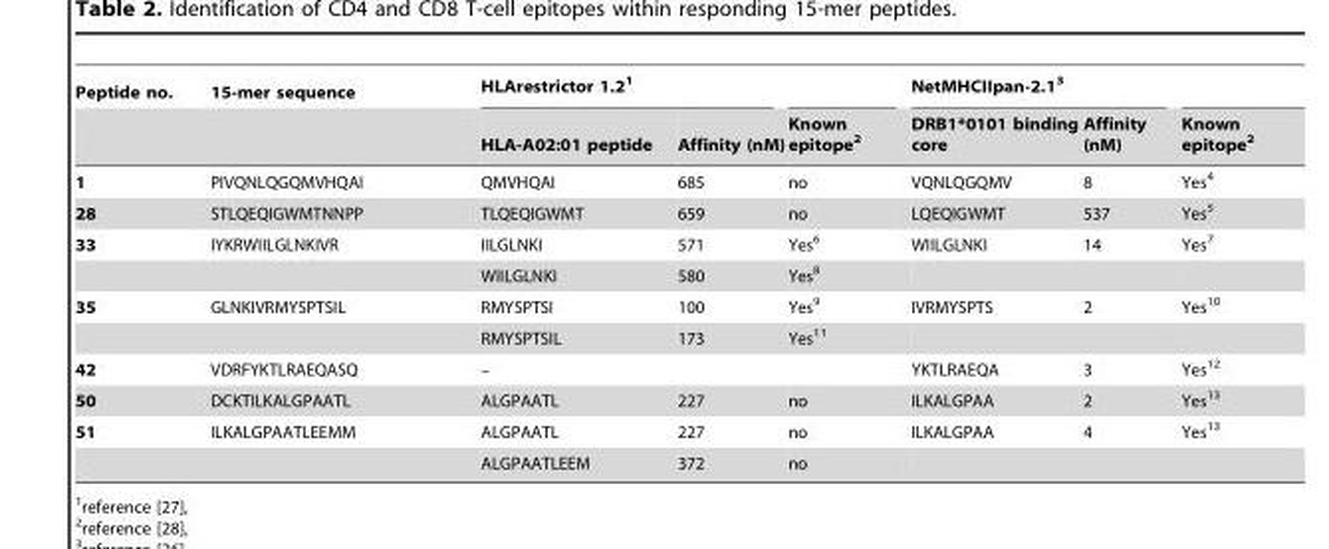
<table><thead><tr><td rowspan="2">Peptide no.</td><td rowspan="2">15-mer sequence</td><td colspan="2">HLArestrictor 1.2<sup>1</sup></td><td rowspan="2">Known epitope<sup>2</sup></td><td colspan="2">NetMHCIIpan-2.1<sup>3</sup></td><td rowspan="2">Known epitope<sup>2</sup></td></tr><tr><td>HLA-A02:01 peptide</td><td>Affinity (nM)</td><td>DRB1*0101 binding core</td><td>Affinity (nM)</td></tr></thead><tbody><tr><td>1</td><td>PIVQNLQGQMVHQAI</td><td>QMVHQAI</td><td>685</td><td>no</td><td>VQNLQGQMV</td><td>8</td><td>Yes<sup>4</sup></td></tr><tr><td>28</td><td>STLQEQIGWMTNNPP</td><td>TLQEQIGWMT</td><td>659</td><td>no</td><td>LQEQIGWMT</td><td>537</td><td>Yes<sup>5</sup></td></tr><tr><td rowspan="2">33</td><td>IYKRWIILGLNKIVR</td><td>IILGLNKI</td><td>571</td><td>Yes<sup>6</sup></td><td>WIILGLNKI</td><td>14</td><td>Yes<sup>7</sup></td></tr><tr><td></td><td>WIILGLNKI</td><td>580</td><td>Yes<sup>8</sup></td><td></td><td></td><td></td></tr><tr><td rowspan="2">35</td><td>GLNKIVRMYSPTSIL</td><td>RMYSPTSI</td><td>100</td><td>Yes<sup>9</sup></td><td>IVRMYSPTS</td><td>2</td><td>Yes<sup>10</sup></td></tr><tr><td></td><td>RMYSPTSIL</td><td>173</td><td>Yes<sup>11</sup></td><td></td><td></td><td></td></tr><tr><td>42</td><td>VDRFYKTLRAEQASQ</td><td>–</td><td></td><td></td><td>YKTLRAEQA</td><td>3</td><td>Yes<sup>12</sup></td></tr><tr><td>50</td><td>DCKTILKALGPAATL</td><td>ALGPAATL</td><td>227</td><td>no</td><td>ILKALGPAA</td><td>2</td><td>Yes<sup>13</sup></td></tr><tr><td rowspan="2">51</td><td>ILKALGPAATLEEMM</td><td>ALGPAATL</td><td>227</td><td>no</td><td>ILKALGPAA</td><td>4</td><td>Yes<sup>13</sup></td></tr><tr><td></td><td>ALGPAATLEEM</td><td>372</td><td>no</td><td></td><td></td><td></td></tr></tbody></table>